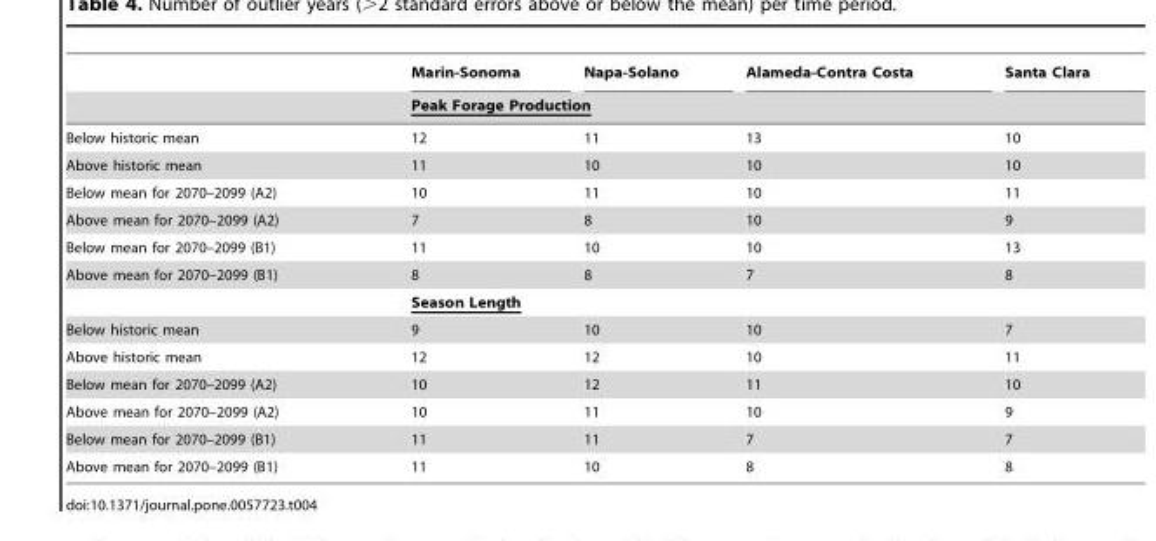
<table><thead><tr><td rowspan="2"></td><td>Marin-Sonoma</td><td>Napa-Solano</td><td>Alameda-Contra Costa</td><td>Santa Clara</td></tr><tr><td colspan="4">Peak Forage Production</td></tr></thead><tbody><tr><td>Below historic mean</td><td>12</td><td>11</td><td>13</td><td>10</td></tr><tr><td>Above historic mean</td><td>11</td><td>10</td><td>10</td><td>10</td></tr><tr><td>Below mean for 2070–2099 (A2)</td><td>10</td><td>11</td><td>10</td><td>11</td></tr><tr><td>Above mean for 2070–2099 (A2)</td><td>7</td><td>8</td><td>10</td><td>9</td></tr><tr><td>Below mean for 2070–2099 (B1)</td><td>11</td><td>10</td><td>10</td><td>13</td></tr><tr><td rowspan="2">Above mean for 2070–2099 (B1)</td><td>8</td><td>8</td><td>7</td><td>8</td></tr><tr><td colspan="4">Season Length</td></tr><tr><td>Below historic mean</td><td>9</td><td>10</td><td>10</td><td>7</td></tr><tr><td>Above historic mean</td><td>12</td><td>12</td><td>10</td><td>11</td></tr><tr><td>Below mean for 2070–2099 (A2)</td><td>10</td><td>12</td><td>11</td><td>10</td></tr><tr><td>Above mean for 2070–2099 (A2)</td><td>10</td><td>11</td><td>10</td><td>9</td></tr><tr><td>Below mean for 2070–2099 (B1)</td><td>11</td><td>11</td><td>7</td><td>7</td></tr><tr><td>Above mean for 2070–2099 (B1)</td><td>11</td><td>10</td><td>8</td><td>8</td></tr></tbody></table>